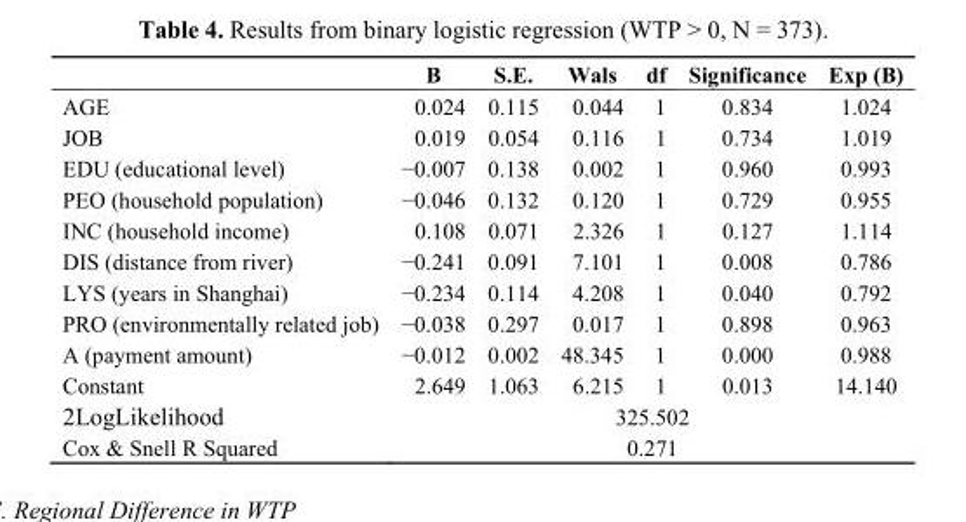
<table><thead><tr><td></td><td>B</td><td>S.E.</td><td>Wals</td><td>df</td><td>Significance</td><td>Exp (B)</td></tr></thead><tbody><tr><td>AGE</td><td>0.024</td><td>0.115</td><td>0.044</td><td>1</td><td>0.834</td><td>1.024</td></tr><tr><td>JOB</td><td>0.019</td><td>0.054</td><td>0.116</td><td>1</td><td>0.734</td><td>1.019</td></tr><tr><td>EDU (educational level)</td><td>−0.007</td><td>0.138</td><td>0.002</td><td>1</td><td>0.960</td><td>0.993</td></tr><tr><td>PEO (household population)</td><td>−0.046</td><td>0.132</td><td>0.120</td><td>1</td><td>0.729</td><td>0.955</td></tr><tr><td>INC (household income)</td><td>0.108</td><td>0.071</td><td>2.326</td><td>1</td><td>0.127</td><td>1.114</td></tr><tr><td>DIS (distance from river)</td><td>−0.241</td><td>0.091</td><td>7.101</td><td>1</td><td>0.008</td><td>0.786</td></tr><tr><td>LYS (years in Shanghai)</td><td>−0.234</td><td>0.114</td><td>4.208</td><td>1</td><td>0.040</td><td>0.792</td></tr><tr><td>PRO (environmentally related job)</td><td>−0.038</td><td>0.297</td><td>0.017</td><td>1</td><td>0.898</td><td>0.963</td></tr><tr><td>A (payment amount)</td><td>−0.012</td><td>0.002</td><td>48.345</td><td>1</td><td>0.000</td><td>0.988</td></tr><tr><td>Constant</td><td>2.649</td><td>1.063</td><td>6.215</td><td>1</td><td>0.013</td><td>14.140</td></tr><tr><td>2LogLikelihood</td><td colspan="6">325.502</td></tr><tr><td>Cox &amp; Snell R Squared</td><td colspan="6">0.271</td></tr></tbody></table>